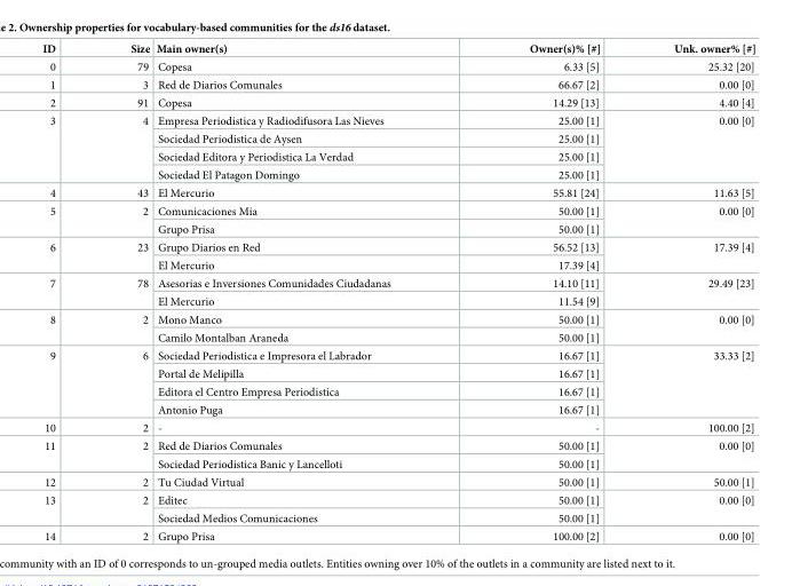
<table><thead><tr><td>ID</td><td>Size</td><td>Main owner(s)</td><td>Owner(s)% [#]</td><td>Unk. owner% [#]</td></tr></thead><tbody><tr><td>0</td><td>79</td><td>Copesa</td><td>6.33 [5]</td><td>25.32 [20]</td></tr><tr><td>1</td><td>3</td><td>Red de Diarios Comunales</td><td>66.67 [2]</td><td>0.00 [0]</td></tr><tr><td>2</td><td>91</td><td>Copesa</td><td>14.29 [13]</td><td>4.40 [4]</td></tr><tr><td rowspan="4">3</td><td rowspan="4">4</td><td>Empresa Periodistica y Radiodifusora Las Nieves</td><td>25.00 [1]</td><td rowspan="4">0.00 [0]</td></tr><tr><td>Sociedad Periodistica de Aysen</td><td>25.00 [1]</td></tr><tr><td>Sociedad Editora y Periodistica La Verdad</td><td>25.00 [1]</td></tr><tr><td>Sociedad El Patagon Domingo</td><td>25.00 [1]</td></tr><tr><td>4</td><td>43</td><td>El Mercurio</td><td>55.81 [24]</td><td>11.63 [5]</td></tr><tr><td rowspan="2">5</td><td rowspan="2">2</td><td>Comunicaciones Mia</td><td>50.00 [1]</td><td rowspan="2">0.00 [0]</td></tr><tr><td>Grupo Prisa</td><td>50.00 [1]</td></tr><tr><td rowspan="2">6</td><td rowspan="2">23</td><td>Grupo Diarios en Red</td><td>56.52 [13]</td><td rowspan="2">17.39 [4]</td></tr><tr><td>El Mercurio</td><td>17.39 [4]</td></tr><tr><td rowspan="2">7</td><td rowspan="2">78</td><td>Asesorias e Inversiones Comunidades Ciudadanas</td><td>14.10 [11]</td><td rowspan="2">29.49 [23]</td></tr><tr><td>El Mercurio</td><td>11.54 [9]</td></tr><tr><td rowspan="2">8</td><td rowspan="2">2</td><td>Mono Manco</td><td>50.00 [1]</td><td rowspan="2">0.00 [0]</td></tr><tr><td>Camilo Montalban Araneda</td><td>50.00 [1]</td></tr><tr><td rowspan="4">9</td><td rowspan="4">6</td><td>Sociedad Periodistica e Impresora el Labrador</td><td>16.67 [1]</td><td rowspan="4">33.33 [2]</td></tr><tr><td>Portal de Melipilla</td><td>16.67 [1]</td></tr><tr><td>Editora el Centro Empresa Periodistica</td><td>16.67 [1]</td></tr><tr><td>Antonio Puga</td><td>16.67 [1]</td></tr><tr><td>10</td><td>2</td><td>-</td><td>-</td><td>100.00 [2]</td></tr><tr><td rowspan="2">11</td><td rowspan="2">2</td><td>Red de Diarios Comunales</td><td>50.00 [1]</td><td rowspan="2">0.00 [0]</td></tr><tr><td>Sociedad Periodistica Banic y Lancelloti</td><td>50.00 [1]</td></tr><tr><td>12</td><td>2</td><td>Tu Ciudad Virtual</td><td>50.00 [1]</td><td>50.00 [1]</td></tr><tr><td rowspan="2">13</td><td rowspan="2">2</td><td>Editec</td><td>50.00 [1]</td><td rowspan="2">0.00 [0]</td></tr><tr><td>Sociedad Medios Comunicaciones</td><td>50.00 [1]</td></tr><tr><td>14</td><td>2</td><td>Grupo Prisa</td><td>100.00 [2]</td><td>0.00 [0]</td></tr></tbody></table>